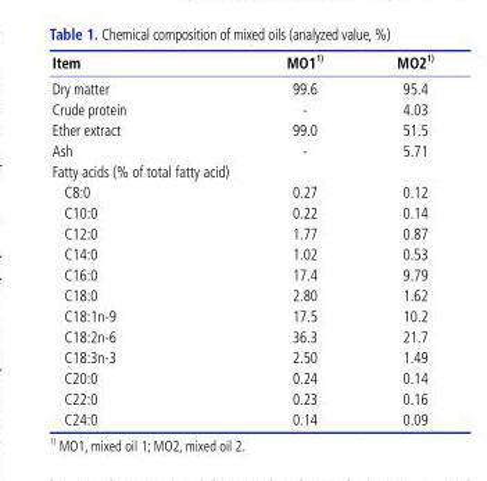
<table><thead><tr><td>Item</td><td>MO1 1)</td><td>MO2 1)</td></tr></thead><tbody><tr><td>Dry matter</td><td>99.6</td><td>95.4</td></tr><tr><td>Crude protein</td><td>-</td><td>4.03</td></tr><tr><td>Ether extract</td><td>99.0</td><td>51.5</td></tr><tr><td>Ash</td><td>-</td><td>5.71</td></tr><tr><td colspan="3">Fatty acids (% of total fatty acid)</td></tr><tr><td>C8:0</td><td>0.27</td><td>0.12</td></tr><tr><td>C10:0</td><td>0.22</td><td>0.14</td></tr><tr><td>C12:0</td><td>1.77</td><td>0.87</td></tr><tr><td>C14:0</td><td>1.02</td><td>0.53</td></tr><tr><td>C16:0</td><td>17.4</td><td>9.79</td></tr><tr><td>C18:0</td><td>2.80</td><td>1.62</td></tr><tr><td>C18:1n-9</td><td>17.5</td><td>10.2</td></tr><tr><td>C18:2n-6</td><td>36.3</td><td>21.7</td></tr><tr><td>C18:3n-3</td><td>2.50</td><td>1.49</td></tr><tr><td>C20:0</td><td>0.24</td><td>0.14</td></tr><tr><td>C22:0</td><td>0.23</td><td>0.16</td></tr><tr><td>C24:0</td><td>0.14</td><td>0.09</td></tr></tbody></table>